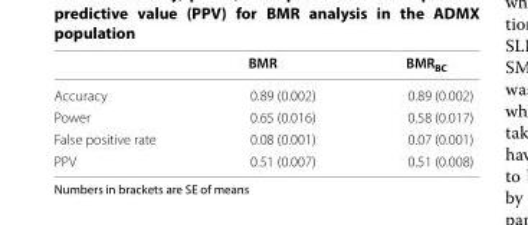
<table><thead><tr><td></td><td>BMR</td><td>BMR<sub>BC</sub></td></tr></thead><tbody><tr><td>Accuracy</td><td>0.89 (0.002)</td><td>0.89 (0.002)</td></tr><tr><td>Power</td><td>0.65 (0.016)</td><td>0.58 (0.017)</td></tr><tr><td>False positive rate</td><td>0.08 (0.001)</td><td>0.07 (0.001)</td></tr><tr><td>PPV</td><td>0.51 (0.007)</td><td>0.51 (0.008)</td></tr></tbody></table>